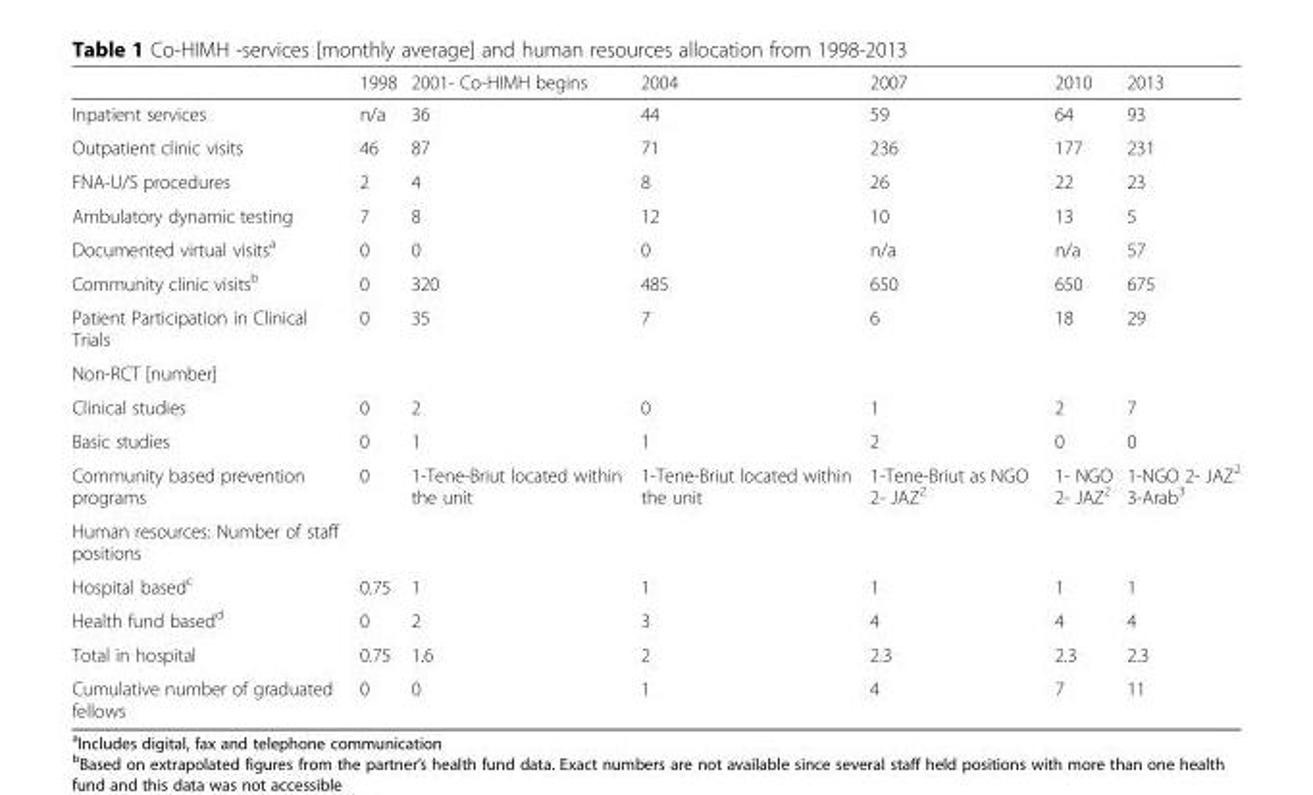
<table><thead><tr><td></td><td>1998</td><td>2001- Co-HIMH begins</td><td>2004</td><td>2007</td><td>2010</td><td>2013</td></tr></thead><tbody><tr><td>Inpatient services</td><td>n/a</td><td>36</td><td>44</td><td>59</td><td>64</td><td>93</td></tr><tr><td>Outpatient clinic visits</td><td>46</td><td>87</td><td>71</td><td>236</td><td>177</td><td>231</td></tr><tr><td>FNA-U/S procedures</td><td>2</td><td>4</td><td>8</td><td>26</td><td>22</td><td>23</td></tr><tr><td>Ambulatory dynamic testing</td><td>7</td><td>8</td><td>12</td><td>10</td><td>13</td><td>5</td></tr><tr><td>Documented virtual visits<sup>a</sup></td><td>0</td><td>0</td><td>0</td><td>n/a</td><td>n/a</td><td>57</td></tr><tr><td>Community clinic visits<sup>b</sup></td><td>0</td><td>320</td><td>485</td><td>650</td><td>650</td><td>675</td></tr><tr><td>Patient Participation in Clinical Trials</td><td>0</td><td>35</td><td>7</td><td>6</td><td>18</td><td>29</td></tr><tr><td colspan="7">Non-RCT [number]</td></tr><tr><td>Clinical studies</td><td>0</td><td>2</td><td>0</td><td>1</td><td>2</td><td>7</td></tr><tr><td>Basic studies</td><td>0</td><td>1</td><td>1</td><td>2</td><td>0</td><td>0</td></tr><tr><td>Community based prevention programs</td><td>0</td><td>1-Tene-Briut located within the unit</td><td>1-Tene-Briut located within the unit</td><td>1-Tene-Briut as NGO 2- JAZ<sup>2</sup></td><td>1- NGO 2- JAZ<sup>2</sup></td><td>1-NGO 2- JAZ<sup>2</sup> 3-Arab<sup>3</sup></td></tr><tr><td colspan="7">Human resources: Number of staff positions</td></tr><tr><td>Hospital based<sup>c</sup></td><td>0.75</td><td>1</td><td>1</td><td>1</td><td>1</td><td>1</td></tr><tr><td>Health fund based<sup>d</sup></td><td>0</td><td>2</td><td>3</td><td>4</td><td>4</td><td>4</td></tr><tr><td>Total in hospital</td><td>0.75</td><td>1.6</td><td>2</td><td>2.3</td><td>2.3</td><td>2.3</td></tr><tr><td>Cumulative number of graduated fellows</td><td>0</td><td>0</td><td>1</td><td>4</td><td>7</td><td>11</td></tr></tbody></table>